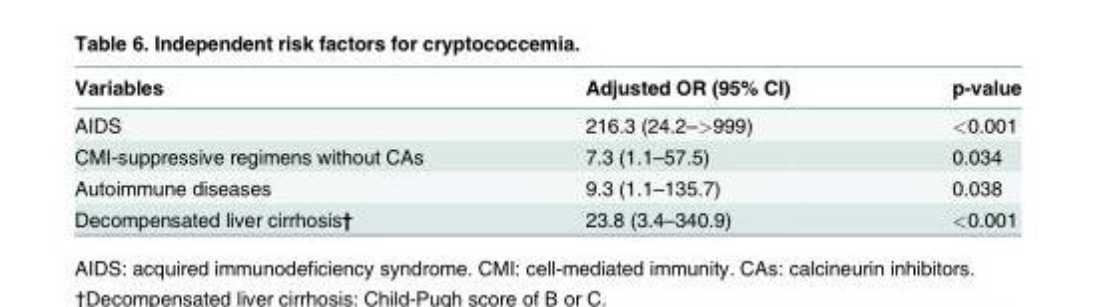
<table><thead><tr><td>Variables</td><td>Adjusted OR (95% CI)</td><td>p-value</td></tr></thead><tbody><tr><td>AIDS</td><td>216.3 (24.2–&gt;999)</td><td>&lt;0.001</td></tr><tr><td>CMI-suppressive regimens without CAs</td><td>7.3 (1.1–57.5)</td><td>0.034</td></tr><tr><td>Autoimmune diseases</td><td>9.3 (1.1–135.7)</td><td>0.038</td></tr><tr><td>Decompensated liver cirrhosis†</td><td>23.8 (3.4–340.9)</td><td>&lt;0.001</td></tr></tbody></table>